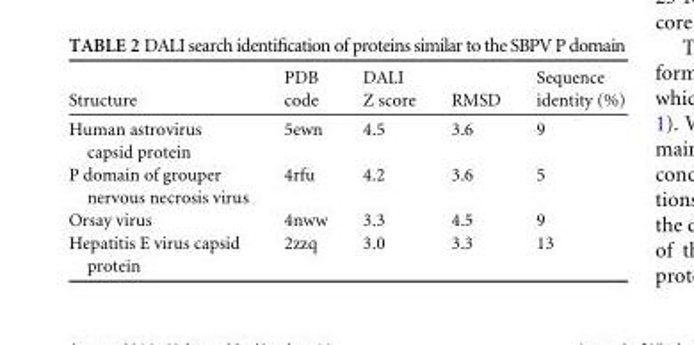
<table><thead><tr><td>Structure</td><td>PDB code</td><td>DALI Z score</td><td>RMSD</td><td>Sequence identity (%)</td></tr></thead><tbody><tr><td>Human astrovirus capsid protein</td><td>5ewn</td><td>4.5</td><td>3.6</td><td>9</td></tr><tr><td>P domain of grouper nervous necrosis virus</td><td>4rfu</td><td>4.2</td><td>3.6</td><td>5</td></tr><tr><td>Orsay virus</td><td>4nww</td><td>3.3</td><td>4.5</td><td>9</td></tr><tr><td>Hepatitis E virus capsid protein</td><td>2zzq</td><td>3.0</td><td>3.3</td><td>13</td></tr></tbody></table>